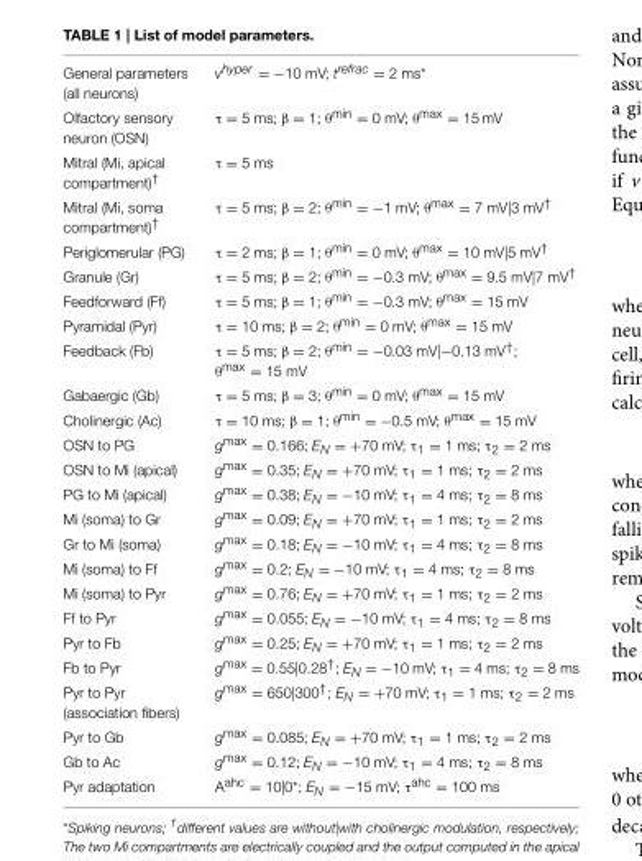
<table><tbody><tr><td>General parameters (all neurons)</td><td>vhyper = −10 mV; trefrac = 2 ms*</td></tr><tr><td>Olfactory sensory neuron (OSN)</td><td>τ = 5 ms; β = 1; θ<sup>min</sup> = 0 mV; θ<sup>max</sup> = 15 mV</td></tr><tr><td>Mitral (Mi, apical compartment)<sup>†</sup></td><td>τ = 5 ms</td></tr><tr><td>Mitral (Mi, soma compartment)<sup>†</sup></td><td>τ = 5 ms; β = 2; θ<sup>min</sup> = −1 mV; θ<sup>max</sup> = 7 mV|3 mV<sup>†</sup></td></tr><tr><td>Periglomerular (PG)</td><td>τ = 2 ms; β = 1; θ<sup>min</sup> = 0 mV; θ<sup>max</sup> = 10 mV|5 mV<sup>†</sup></td></tr><tr><td>Granule (Gr)</td><td>τ = 5 ms; β = 2; θ<sup>min</sup> = −0.3 mV; θ<sup>max</sup> = 9.5 mV|7 mV<sup>†</sup></td></tr><tr><td>Feedforward (Ff)</td><td>τ = 5 ms; β = 1; θ<sup>min</sup> = −0.3 mV; θ<sup>max</sup> = 15 mV</td></tr><tr><td>Pyramidal (Pyr)</td><td>τ = 10 ms; β = 2; θ<sup>min</sup> = 0 mV; θ<sup>max</sup> = 15 mV</td></tr><tr><td>Feedback (Fb)</td><td>τ = 5 ms; β = 2; θ<sup>min</sup> = −0.03 mV|−0.13 mV<sup>†</sup>; θ<sup>max</sup> = 15 mV</td></tr><tr><td>Gabaergic (Gb)</td><td>τ = 5 ms; β = 3; θ<sup>min</sup> = 0 mV; θ<sup>max</sup> = 15 mV</td></tr><tr><td>Cholinergic (Ac)</td><td>τ = 10 ms; β = 1; θ<sup>min</sup> = −0.5 mV; θ<sup>max</sup> = 15 mV</td></tr><tr><td>OSN to PG</td><td>gmax = 0.166; EN = +70 mV; τ1 = 1 ms; τ2 = 2 ms</td></tr><tr><td>OSN to Mi (apical)</td><td>gmax = 0.35; EN = +70 mV; τ1 = 1 ms; τ2 = 2 ms</td></tr><tr><td>PG to Mi (apical)</td><td>gmax = 0.38; EN = −10 mV; τ1 = 4 ms; τ2 = 8 ms</td></tr><tr><td>Mi (soma) to Gr</td><td>gmax = 0.09; EN = +70 mV; τ1 = 1 ms; τ2 = 2 ms</td></tr><tr><td>Gr to Mi (soma)</td><td>gmax = 0.18; EN = −10 mV; τ1 = 4 ms; τ2 = 8 ms</td></tr><tr><td>Mi (soma) to Ff</td><td>gmax = 0.2; EN = −10 mV; τ1 = 4 ms; τ2 = 8 ms</td></tr><tr><td>Mi (soma) to Pyr</td><td>gmax = 0.76; EN = +70 mV; τ1 = 1 ms; τ2 = 2 ms</td></tr><tr><td>Ff to Pyr</td><td>gmax = 0.055; EN = −10 mV; τ1 = 4 ms; τ2 = 8 ms</td></tr><tr><td>Pyr to Fb</td><td>gmax = 0.25; EN = +70 mV; τ1 = 1 ms; τ2 = 2 ms</td></tr><tr><td>Fb to Pyr</td><td>gmax = 0.55|0.28†; EN = −10 mV; τ1 = 4 ms; τ2 = 8 ms</td></tr><tr><td>Pyr to Pyr (association fibers)</td><td>gmax = 650|300†; EN = +70 mV; τ1 = 1 ms; τ2 = 2 ms</td></tr><tr><td>Pyr to Gb</td><td>gmax = 0.085; EN = +70 mV; τ1 = 1 ms; τ2 = 2 ms</td></tr><tr><td>Gb to Ac</td><td>gmax = 0.12; EN = −10 mV; τ1 = 4 ms; τ2 = 8 ms</td></tr><tr><td>Pyr adaptation</td><td>Aahc = 10|0*; EN = −15 mV; τahc = 100 ms</td></tr></tbody></table>